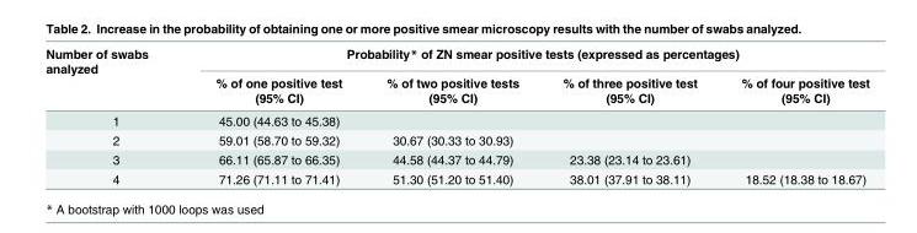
<table><thead><tr><td rowspan="2">Number of swabs analyzed</td><td colspan="4">Probability* of ZN smear positive tests (expressed as percentages)</td></tr><tr><td>% of one positive test (95% CI)</td><td>% of two positive tests (95% CI)</td><td>% of three positive test (95% CI)</td><td>% of four positive test (95% CI)</td></tr></thead><tbody><tr><td>1</td><td>45.00 (44.63 to 45.38)</td><td></td><td></td><td></td></tr><tr><td>2</td><td>59.01 (58.70 to 59.32)</td><td>30.67 (30.33 to 30.93)</td><td></td><td></td></tr><tr><td>3</td><td>66.11 (65.87 to 66.35)</td><td>44.58 (44.37 to 44.79)</td><td>23.38 (23.14 to 23.61)</td><td></td></tr><tr><td>4</td><td>71.26 (71.11 to 71.41)</td><td>51.30 (51.20 to 51.40)</td><td>38.01 (37.91 to 38.11)</td><td>18.52 (18.38 to 18.67)</td></tr></tbody></table>